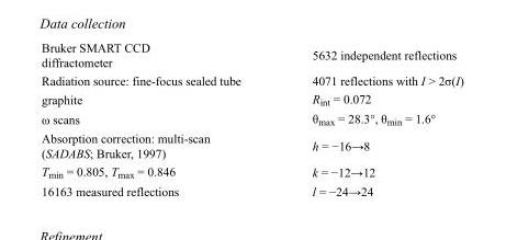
<table><tbody><tr><td>Bruker SMART CCD diffractometer</td><td>5632 independent reflections</td></tr><tr><td>Radiation source: fine-focus sealed tube</td><td>4071 reflections with I &gt; 2σ(I)</td></tr><tr><td>graphite</td><td>R<sub>int</sub> = 0.072</td></tr><tr><td>ω scans</td><td>θ<sub>max</sub> = 28.3°, θ<sub>min</sub> = 1.6°</td></tr><tr><td>Absorption correction: multi-scan (SADABS; Bruker, 1997)</td><td>h = −16→8</td></tr><tr><td>T<sub>min</sub> = 0.805, T<sub>max</sub> = 0.846</td><td>k = −12→12</td></tr><tr><td>16163 measured reflections</td><td>l = −24→24</td></tr></tbody></table>